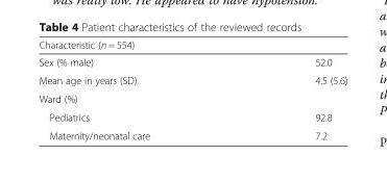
<table><thead><tr><td>Characteristic (n = 554)</td><td></td></tr></thead><tbody><tr><td>Sex (% male)</td><td>52.0</td></tr><tr><td>Mean age in years (SD)</td><td>4.5 (5.6)</td></tr><tr><td colspan="2">Ward (%)</td></tr><tr><td>Pediatrics</td><td>92.8</td></tr><tr><td>Maternity/neonatal care</td><td>7.2</td></tr></tbody></table>